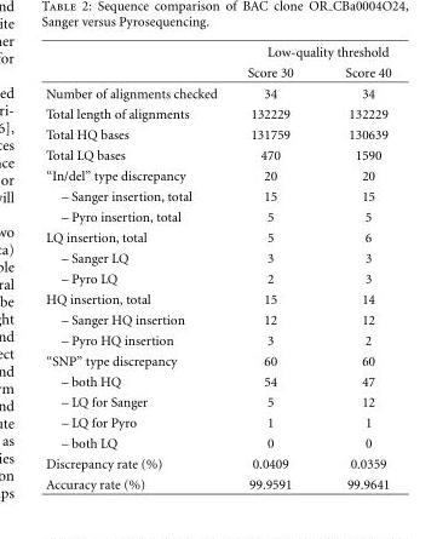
<table><thead><tr><td rowspan="2"></td><td colspan="2">Low-quality threshold</td></tr><tr><td>Score 30</td><td>Score 40</td></tr></thead><tbody><tr><td>Number of alignments checked</td><td>34</td><td>34</td></tr><tr><td>Total length of alignments</td><td>132229</td><td>132229</td></tr><tr><td>Total HQ bases</td><td>131759</td><td>130639</td></tr><tr><td>Total LQ bases</td><td>470</td><td>1590</td></tr><tr><td>“In/del” type discrepancy</td><td>20</td><td>20</td></tr><tr><td>– Sanger insertion, total</td><td>15</td><td>15</td></tr><tr><td>– Pyro insertion, total</td><td>5</td><td>5</td></tr><tr><td>LQ insertion, total</td><td>5</td><td>6</td></tr><tr><td>– Sanger LQ</td><td>3</td><td>3</td></tr><tr><td>– Pyro LQ</td><td>2</td><td>3</td></tr><tr><td>HQ insertion, total</td><td>15</td><td>14</td></tr><tr><td>– Sanger HQ insertion</td><td>12</td><td>12</td></tr><tr><td>– Pyro HQ insertion</td><td>3</td><td>2</td></tr><tr><td>“SNP” type discrepancy</td><td>60</td><td>60</td></tr><tr><td>– both HQ</td><td>54</td><td>47</td></tr><tr><td>– LQ for Sanger</td><td>5</td><td>12</td></tr><tr><td>– LQ for Pyro</td><td>1</td><td>1</td></tr><tr><td>– both LQ</td><td>0</td><td>0</td></tr><tr><td>Discrepancy rate (%)</td><td>0.0409</td><td>0.0359</td></tr><tr><td>Accuracy rate (%)</td><td>99.9591</td><td>99.9641</td></tr></tbody></table>